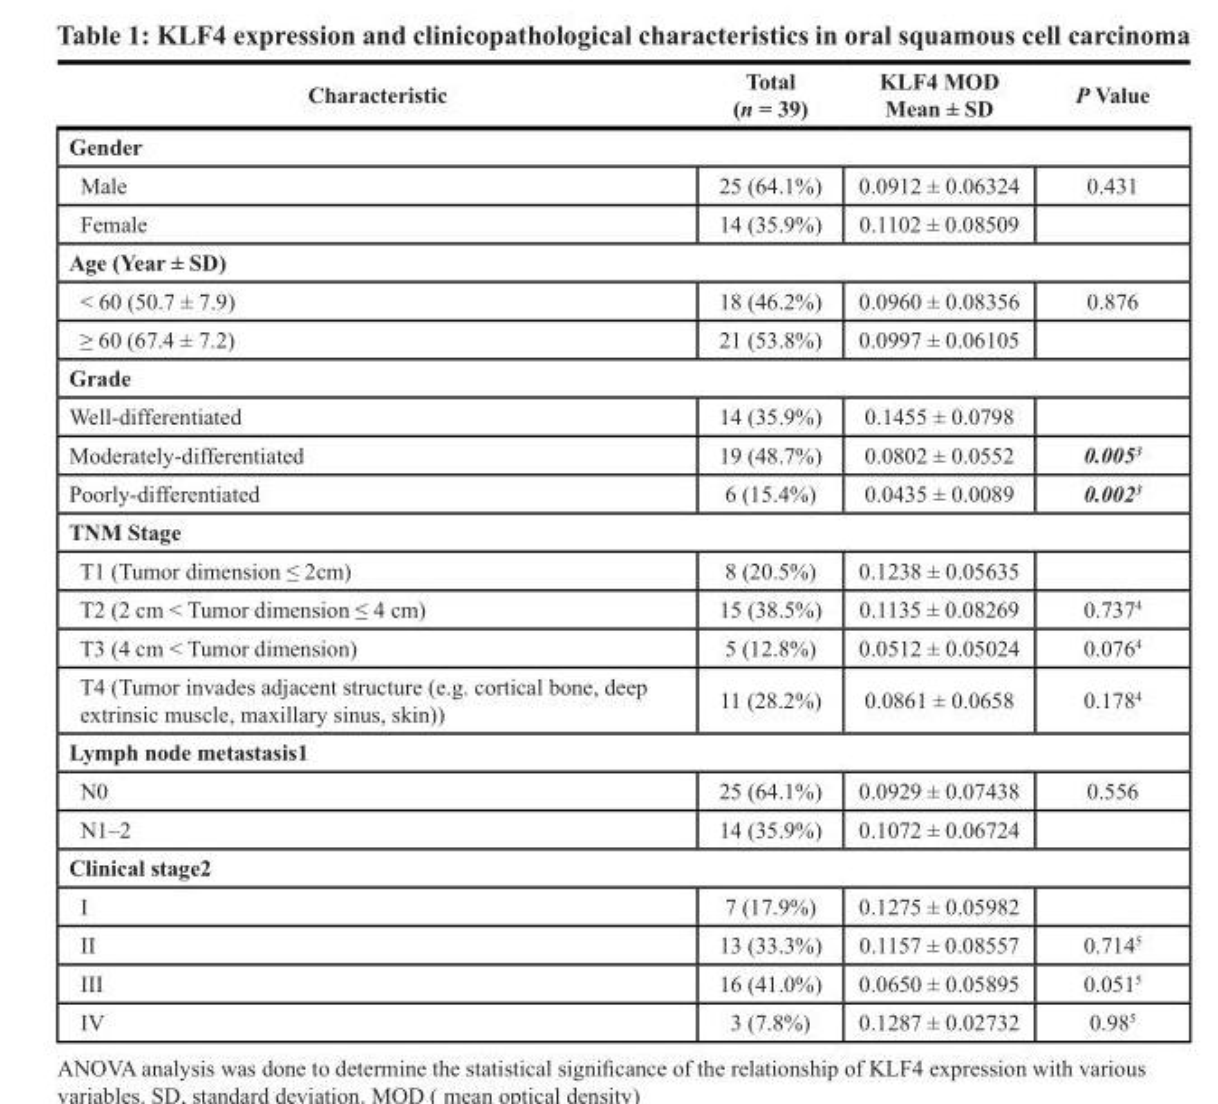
<table><thead><tr><td>Characteristic</td><td>Total (n = 39)</td><td>KLF4 MOD Mean ± SD</td><td>P Value</td></tr></thead><tbody><tr><td colspan="4">Gender</td></tr><tr><td>Male</td><td>25 (64.1%)</td><td>0.0912 ± 0.06324</td><td>0.431</td></tr><tr><td>Female</td><td>14 (35.9%)</td><td>0.1102 ± 0.08509</td><td></td></tr><tr><td colspan="4">Age (Year ± SD)</td></tr><tr><td>&lt; 60 (50.7 ± 7.9)</td><td>18 (46.2%)</td><td>0.0960 ± 0.08356</td><td>0.876</td></tr><tr><td>≥ 60 (67.4 ± 7.2)</td><td>21 (53.8%)</td><td>0.0997 ± 0.06105</td><td></td></tr><tr><td colspan="4">Grade</td></tr><tr><td>Well-differentiated</td><td>14 (35.9%)</td><td>0.1455 ± 0.0798</td><td></td></tr><tr><td>Moderately-differentiated</td><td>19 (48.7%)</td><td>0.0802 ± 0.0552</td><td>0.005<sup>3</sup></td></tr><tr><td>Poorly-differentiated</td><td>6 (15.4%)</td><td>0.0435 ± 0.0089</td><td>0.002<sup>3</sup></td></tr><tr><td colspan="4">TNM Stage</td></tr><tr><td>T1 (Tumor dimension ≤ 2cm)</td><td>8 (20.5%)</td><td>0.1238 ± 0.05635</td><td></td></tr><tr><td>T2 (2 cm &lt; Tumor dimension ≤ 4 cm)</td><td>15 (38.5%)</td><td>0.1135 ± 0.08269</td><td>0.737<sup>4</sup></td></tr><tr><td>T3 (4 cm &lt; Tumor dimension)</td><td>5 (12.8%)</td><td>0.0512 ± 0.05024</td><td>0.076<sup>4</sup></td></tr><tr><td>T4 (Tumor invades adjacent structure (e.g. cortical bone, deep extrinsic muscle, maxillary sinus, skin))</td><td>11 (28.2%)</td><td>0.0861 ± 0.0658</td><td>0.178<sup>4</sup></td></tr><tr><td colspan="4">Lymph node metastasis<sup>1</sup></td></tr><tr><td>N0</td><td>25 (64.1%)</td><td>0.0929 ± 0.07438</td><td>0.556</td></tr><tr><td>N1–2</td><td>14 (35.9%)</td><td>0.1072 ± 0.06724</td><td></td></tr><tr><td colspan="4">Clinical stage<sup>2</sup></td></tr><tr><td>I</td><td>7 (17.9%)</td><td>0.1275 ± 0.05982</td><td></td></tr><tr><td>II</td><td>13 (33.3%)</td><td>0.1157 ± 0.08557</td><td>0.714<sup>5</sup></td></tr><tr><td>III</td><td>16 (41.0%)</td><td>0.0650 ± 0.05895</td><td>0.051<sup>5</sup></td></tr><tr><td>IV</td><td>3 (7.8%)</td><td>0.1287 ± 0.02732</td><td>0.98<sup>5</sup></td></tr></tbody></table>